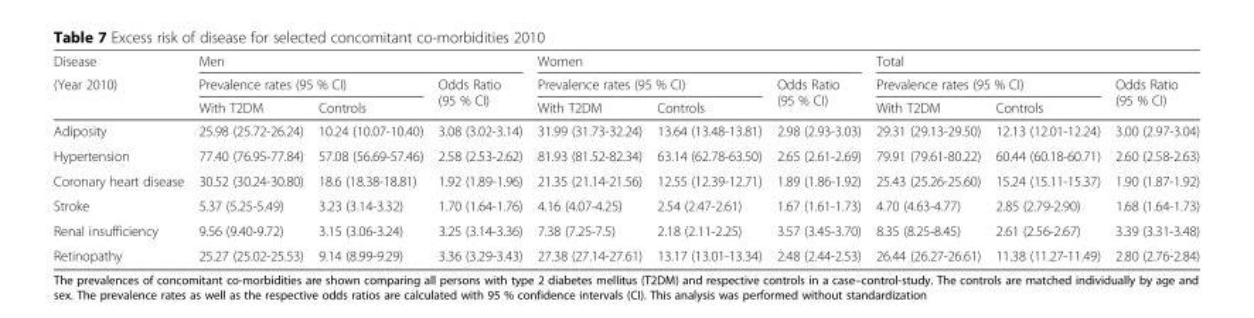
<table><thead><tr><td rowspan="3">Disease (Year 2010)</td><td colspan="3">Men</td><td colspan="3">Women</td><td colspan="3">Total</td></tr><tr><td colspan="2">Prevalence rates (95 % CI)</td><td rowspan="2">Odds Ratio (95 % CI)</td><td colspan="2">Prevalence rates (95 % CI)</td><td rowspan="2">Odds Ratio (95 % CI)</td><td colspan="2">Prevalence rates (95 % CI)</td><td rowspan="2">Odds Ratio (95 % CI)</td></tr><tr><td>With T2DM</td><td>Controls</td><td>With T2DM</td><td>Controls</td><td>With T2DM</td><td>Controls</td></tr></thead><tbody><tr><td>Adiposity</td><td>25.98 (25.72-26.24)</td><td>10.24 (10.07-10.40)</td><td>3.08 (3.02-3.14)</td><td>31.99 (31.73-32.24)</td><td>13.64 (13.48-13.81)</td><td>2.98 (2.93-3.03)</td><td>29.31 (29.13-29.50)</td><td>12.13 (12.01-12.24)</td><td>3.00 (2.97-3.04)</td></tr><tr><td>Hypertension</td><td>77.40 (76.95-77.84)</td><td>57.08 (56.69-57.46)</td><td>2.58 (2.53-2.62)</td><td>81.93 (81.52-82.34)</td><td>63.14 (62.78-63.50)</td><td>2.65 (2.61-2.69)</td><td>79.91 (79.61-80.22)</td><td>60.44 (60.18-60.71)</td><td>2.60 (2.58-2.63)</td></tr><tr><td>Coronary heart disease</td><td>30.52 (30.24-30.80)</td><td>18.6 (18.38-18.81)</td><td>1.92 (1.89-1.96)</td><td>21.35 (21.14-21.56)</td><td>12.55 (12.39-12.71)</td><td>1.89 (1.86-1.92)</td><td>25.43 (25.26-25.60)</td><td>15.24 (15.11-15.37)</td><td>1.90 (1.87-1.92)</td></tr><tr><td>Stroke</td><td>5.37 (5.25-5.49)</td><td>3.23 (3.14-3.32)</td><td>1.70 (1.64-1.76)</td><td>4.16 (4.07-4.25)</td><td>2.54 (2.47-2.61)</td><td>1.67 (1.61-1.73)</td><td>4.70 (4.63-4.77)</td><td>2.85 (2.79-2.90)</td><td>1.68 (1.64-1.73)</td></tr><tr><td>Renal insufficiency</td><td>9.56 (9.40-9.72)</td><td>3.15 (3.06-3.24)</td><td>3.25 (3.14-3.36)</td><td>7.38 (7.25-7.5)</td><td>2.18 (2.11-2.25)</td><td>3.57 (3.45-3.70)</td><td>8.35 (8.25-8.45)</td><td>2.61 (2.56-2.67)</td><td>3.39 (3.31-3.48)</td></tr><tr><td>Retinopathy</td><td>25.27 (25.02-25.53)</td><td>9.14 (8.99-9.29)</td><td>3.36 (3.29-3.43)</td><td>27.38 (27.14-27.61)</td><td>13.17 (13.01-13.34)</td><td>2.48 (2.44-2.53)</td><td>26.44 (26.27-26.61)</td><td>11.38 (11.27-11.49)</td><td>2.80 (2.76-2.84)</td></tr></tbody></table>